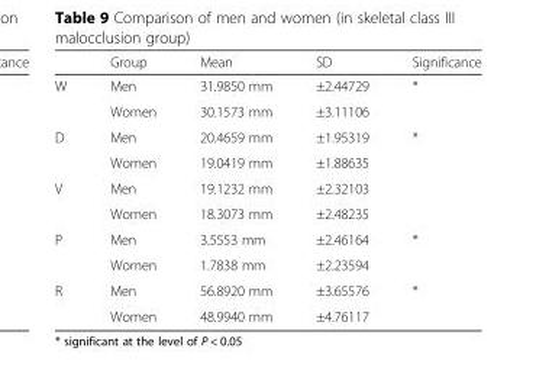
<table><thead><tr><td></td><td>Group</td><td>Mean</td><td>SD</td><td>Significance</td></tr></thead><tbody><tr><td rowspan="2">W</td><td>Men</td><td>31.9850 mm</td><td>±2.44729</td><td rowspan="2">*</td></tr><tr><td>Women</td><td>30.1573 mm</td><td>±3.11106</td></tr><tr><td rowspan="2">D</td><td>Men</td><td>20.4659 mm</td><td>±1.95319</td><td rowspan="2">*</td></tr><tr><td>Women</td><td>19.0419 mm</td><td>±1.88635</td></tr><tr><td rowspan="2">V</td><td>Men</td><td>19.1232 mm</td><td>±2.32103</td><td rowspan="2"></td></tr><tr><td>Women</td><td>18.3073 mm</td><td>±2.48235</td></tr><tr><td rowspan="2">P</td><td>Men</td><td>3.5553 mm</td><td>±2.46164</td><td rowspan="2">*</td></tr><tr><td>Women</td><td>1.7838 mm</td><td>±2.23594</td></tr><tr><td rowspan="2">R</td><td>Men</td><td>56.8920 mm</td><td>±3.65576</td><td rowspan="2">*</td></tr><tr><td>Women</td><td>48.9940 mm</td><td>±4.76117</td></tr></tbody></table>